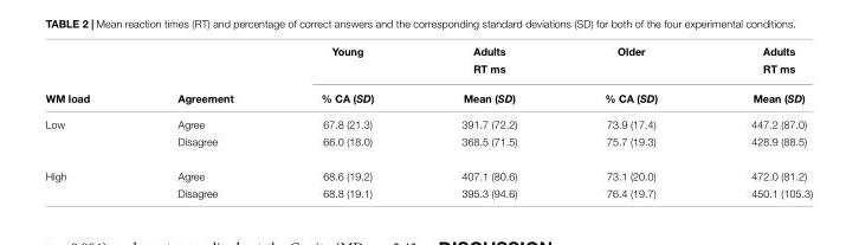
<table><thead><tr><td rowspan="3">WM load</td><td rowspan="3">Agreement</td><td rowspan="3">Young % CA (SD)</td><td rowspan="3">Adults RT ms Mean (SD)</td><td rowspan="3">Older % CA (SD)</td><td rowspan="3">Adults RT ms Mean (SD)</td></tr><tr></tr><tr></tr></thead><tbody><tr><td rowspan="2">Low</td><td>Agree</td><td>67.8 (21.3)</td><td>391.7 (72.2)</td><td>73.9 (17.4)</td><td>447.2 (87.0)</td></tr><tr><td>Disagree</td><td>66.0 (18.0)</td><td>368.5 (71.5)</td><td>75.7 (19.3)</td><td>428.9 (88.5)</td></tr><tr><td rowspan="2">High</td><td>Agree</td><td>68.6 (19.2)</td><td>407.1 (80.6)</td><td>73.1 (20.0)</td><td>472.0 (81.2)</td></tr><tr><td>Disagree</td><td>68.8 (19.1)</td><td>395.3 (94.6)</td><td>76.4 (19.7)</td><td>450.1 (105.3)</td></tr></tbody></table>